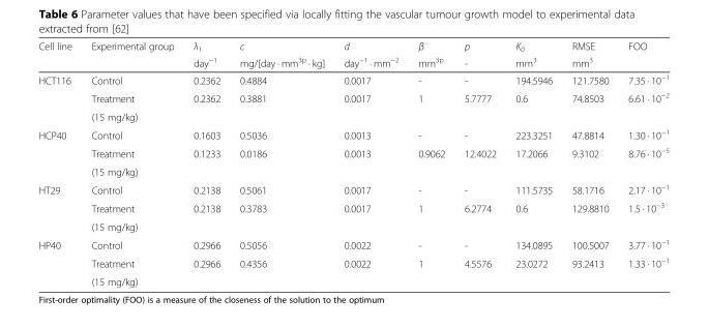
<table><thead><tr><td rowspan="2">Cell line</td><td rowspan="2">Experimental group</td><td rowspan="2">λ<sub>1</sub> day<sup>−1</sup></td><td rowspan="2">c mg/[day · mm<sup>3p</sup> · kg]</td><td rowspan="2">d day<sup>−1</sup> · mm<sup>−2</sup></td><td rowspan="2">β mm<sup>3p</sup></td><td rowspan="2">p -</td><td rowspan="2">K<sub>0</sub> mm<sup>3</sup></td><td rowspan="2">RMSE mm<sup>3</sup></td><td rowspan="2">FOO</td></tr><tr></tr></thead><tbody><tr><td rowspan="3">HCT116</td><td>Control</td><td>0.2362</td><td>0.4884</td><td>0.0017</td><td>-</td><td>-</td><td>194.5946</td><td>121.7580</td><td>7.35 · 10<sup>−1</sup></td></tr><tr><td>Treatment</td><td rowspan="2">0.2362</td><td rowspan="2">0.3881</td><td rowspan="2">0.0017</td><td rowspan="2">1</td><td rowspan="2">5.7777</td><td rowspan="2">0.6</td><td rowspan="2">74.8503</td><td rowspan="2">6.61 · 10<sup>−2</sup></td></tr><tr><td>(15 mg/kg)</td></tr><tr><td rowspan="3">HCP40</td><td>Control</td><td>0.1603</td><td>0.5036</td><td>0.0013</td><td>-</td><td>-</td><td>223.3251</td><td>47.8814</td><td>1.30 · 10<sup>−1</sup></td></tr><tr><td>Treatment</td><td rowspan="2">0.1233</td><td rowspan="2">0.0186</td><td rowspan="2">0.0013</td><td rowspan="2">0.9062</td><td rowspan="2">12.4022</td><td rowspan="2">17.2066</td><td rowspan="2">9.3102</td><td rowspan="2">8.76 · 10<sup>−5</sup></td></tr><tr><td>(15 mg/kg)</td></tr><tr><td rowspan="3">HT29</td><td>Control</td><td>0.2138</td><td>0.5061</td><td>0.0017</td><td>-</td><td>-</td><td>111.5735</td><td>58.1716</td><td>2.17 · 10<sup>−1</sup></td></tr><tr><td>Treatment</td><td rowspan="2">0.2138</td><td rowspan="2">0.3783</td><td rowspan="2">0.0017</td><td rowspan="2">1</td><td rowspan="2">6.2774</td><td rowspan="2">0.6</td><td rowspan="2">129.8810</td><td rowspan="2">1.5 · 10<sup>−3</sup></td></tr><tr><td>(15 mg/kg)</td></tr><tr><td rowspan="3">HP40</td><td>Control</td><td>0.2966</td><td>0.5056</td><td>0.0022</td><td>-</td><td>-</td><td>134.0895</td><td>100.5007</td><td>3.77 · 10<sup>−1</sup></td></tr><tr><td>Treatment</td><td rowspan="2">0.2966</td><td rowspan="2">0.4356</td><td rowspan="2">0.0022</td><td rowspan="2">1</td><td rowspan="2">4.5576</td><td rowspan="2">23.0272</td><td rowspan="2">93.2413</td><td rowspan="2">1.33 · 10<sup>−1</sup></td></tr><tr><td>(15 mg/kg)</td></tr></tbody></table>